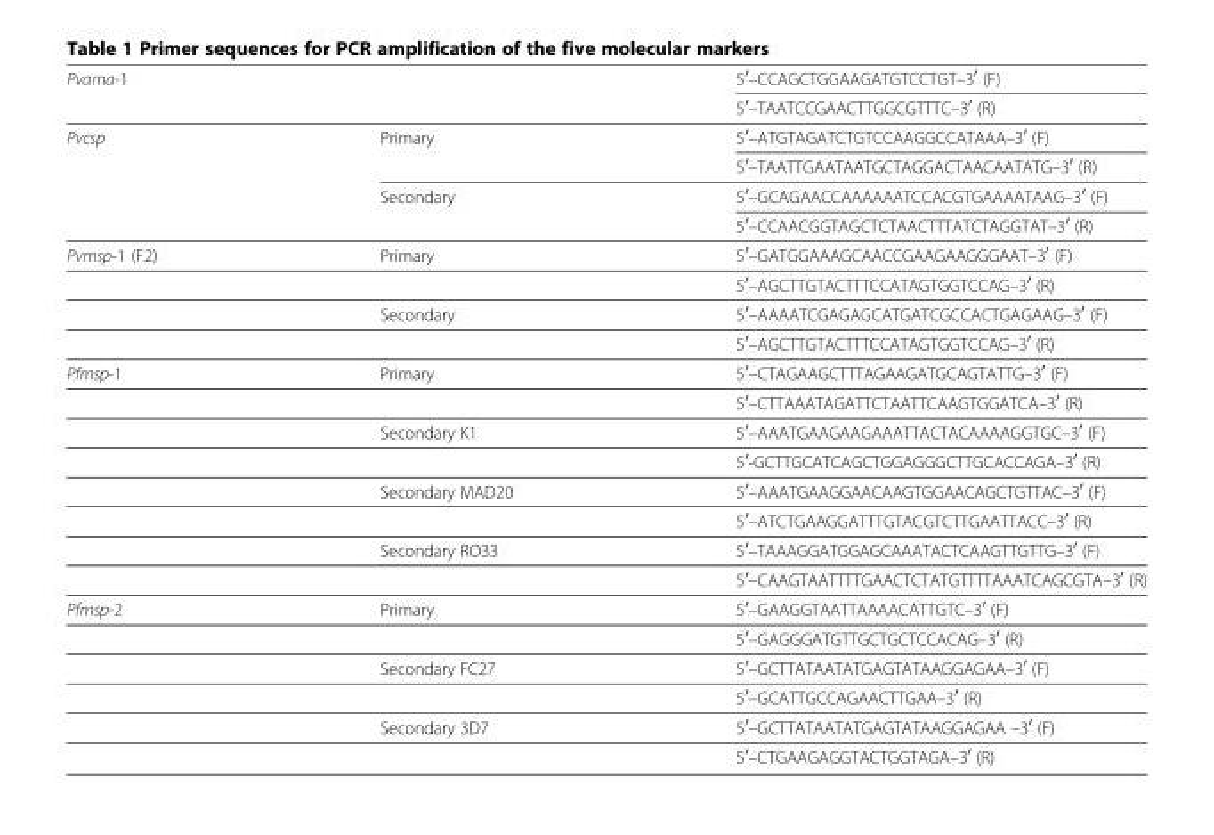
<table><tbody><tr><td rowspan="2">Pvama-1</td><td rowspan="2"></td><td>5′–CCAGCTGGAAGATGTCCTGT–3′ (F)</td></tr><tr><td>5′–TAATCCGAACTTGGCGTTTC–3′ (R)</td></tr><tr><td rowspan="4">Pvcsp</td><td rowspan="2">Primary</td><td>5′–ATGTAGATCTGTCCAAGGCCATAAA–3′ (F)</td></tr><tr><td>5′–TAATTGAATAATGCTAGGACTAACAATATG–3′ (R)</td></tr><tr><td rowspan="2">Secondary</td><td>5′–GCAGAACCAAAAAATCCACGTGAAAATAAG–3′ (F)</td></tr><tr><td>5′–CCAACGGTAGCTCTAACTTTATCTAGGTAT–3′ (R)</td></tr><tr><td rowspan="4">Pvmsp-1 (F2)</td><td>Primary</td><td>5′–GATGGAAAGCAACCGAAGAAGGGAAT–3′ (F)</td></tr><tr><td></td><td>5′–AGCTTGTACTTTCCATAGTGGTCCAG–3′ (R)</td></tr><tr><td>Secondary</td><td>5′–AAAATCGAGAGCATGATCGCCACTGAGAAG–3′ (F)</td></tr><tr><td></td><td>5′–AGCTTGTACTTTCCATAGTGGTCCAG–3′ (R)</td></tr><tr><td rowspan="8">Pfmsp-1</td><td>Primary</td><td>5′–CTAGAAGCTTTAGAAGATGCAGTATTG–3′ (F)</td></tr><tr><td></td><td>5′–CTTAAATAGATTCTAATTCAAGTGGATCA–3′ (R)</td></tr><tr><td>Secondary K1</td><td>5′–AAATGAAGAAGAAATTACTACAAAAGGTGC–3′ (F)</td></tr><tr><td></td><td>5′-GCTTGCATCAGCTGGAGGGCTTGCACCAGA–3′ (R)</td></tr><tr><td>Secondary MAD20</td><td>5′–AAATGAAGGAACAAGTGGAACAGCTGTTAC–3′ (F)</td></tr><tr><td></td><td>5′–ATCTGAAGGATTTGTACGTCTTGAATTACC–3′ (R)</td></tr><tr><td>Secondary RO33</td><td>5′–TAAAGGATGGAGCAAATACTCAAGTTGTTG–3′ (F)</td></tr><tr><td></td><td>5′–CAAGTAATTTTGAACTCTATGTTTTAAATCAGCGTA–3′ (R)</td></tr><tr><td rowspan="6">Pfmsp-2</td><td>Primary</td><td>5′–GAAGGTAATTAAAACATTGTC–3′ (F)</td></tr><tr><td></td><td>5′–GAGGGATGTTGCTGCTCCACAG–3′ (R)</td></tr><tr><td>Secondary FC27</td><td>5′–GCTTATAATATGAGTATAAGGAGAA–3′ (F)</td></tr><tr><td></td><td>5′–GCATTGCCAGAACTTGAA–3′ (R)</td></tr><tr><td>Secondary 3D7</td><td>5′–GCTTATAATATGAGTATAAGGAGAA –3′ (F)</td></tr><tr><td></td><td>5′–CTGAAGAGGTACTGGTAGA–3′ (R)</td></tr></tbody></table>